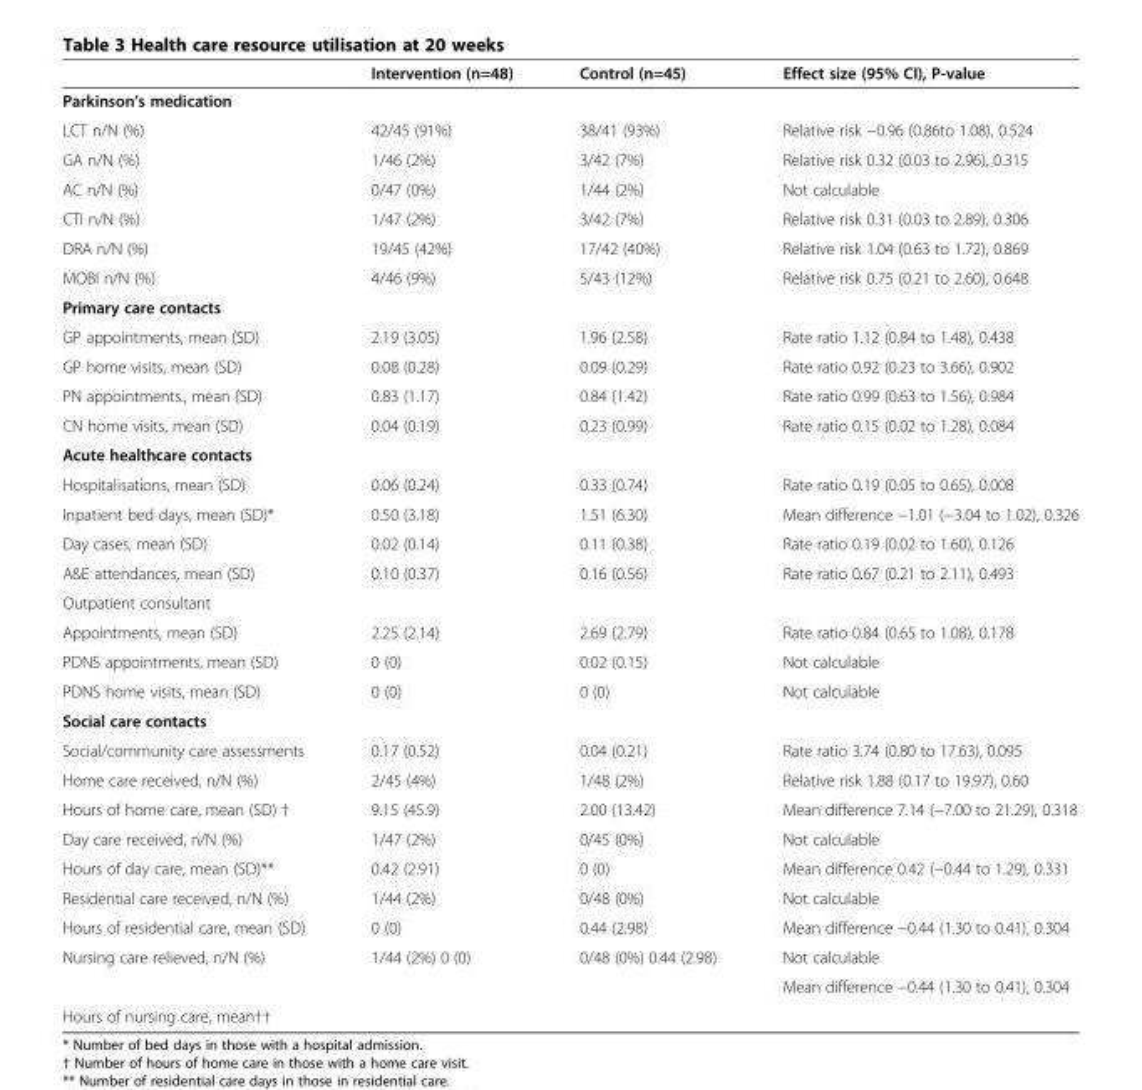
<table><thead><tr><td></td><td>Intervention (n=48)</td><td>Control (n=45)</td><td>Effect size (95% CI), P-value</td></tr></thead><tbody><tr><td colspan="4">Parkinson’s medication</td></tr><tr><td>LCT n/N (%)</td><td>42/45 (91%)</td><td>38/41 (93%)</td><td>Relative risk −0.96 (0.86to 1.08), 0.524</td></tr><tr><td>GA n/N (%)</td><td>1/46 (2%)</td><td>3/42 (7%)</td><td>Relative risk 0.32 (0.03 to 2.96), 0.315</td></tr><tr><td>AC n/N (%)</td><td>0/47 (0%)</td><td>1/44 (2%)</td><td>Not calculable</td></tr><tr><td>CTI n/N (%)</td><td>1/47 (2%)</td><td>3/42 (7%)</td><td>Relative risk 0.31 (0.03 to 2.89), 0.306</td></tr><tr><td>DRA n/N (%)</td><td>19/45 (42%)</td><td>17/42 (40%)</td><td>Relative risk 1.04 (0.63 to 1.72), 0.869</td></tr><tr><td>MOBI n/N (%)</td><td>4/46 (9%)</td><td>5/43 (12%)</td><td>Relative risk 0.75 (0.21 to 2.60), 0.648</td></tr><tr><td colspan="4">Primary care contacts</td></tr><tr><td>GP appointments, mean (SD)</td><td>2.19 (3.05)</td><td>1.96 (2.58)</td><td>Rate ratio 1.12 (0.84 to 1.48), 0.438</td></tr><tr><td>GP home visits, mean (SD)</td><td>0.08 (0.28)</td><td>0.09 (0.29)</td><td>Rate ratio 0.92 (0.23 to 3.66), 0.902</td></tr><tr><td>PN appointments., mean (SD)</td><td>0.83 (1.17)</td><td>0.84 (1.42)</td><td>Rate ratio 0.99 (0.63 to 1.56), 0.984</td></tr><tr><td>CN home visits, mean (SD)</td><td>0.04 (0.19)</td><td>0.23 (0.99)</td><td>Rate ratio 0.15 (0.02 to 1.28), 0.084</td></tr><tr><td colspan="4">Acute healthcare contacts</td></tr><tr><td>Hospitalisations, mean (SD)</td><td>0.06 (0.24)</td><td>0.33 (0.74)</td><td>Rate ratio 0.19 (0.05 to 0.65), 0.008</td></tr><tr><td>Inpatient bed days, mean (SD)*</td><td>0.50 (3.18)</td><td>1.51 (6.30)</td><td>Mean difference −1.01 (−3.04 to 1.02), 0.326</td></tr><tr><td>Day cases, mean (SD)</td><td>0.02 (0.14)</td><td>0.11 (0.38)</td><td>Rate ratio 0.19 (0.02 to 1.60), 0.126</td></tr><tr><td>A&amp;E attendances, mean (SD)</td><td>0.10 (0.37)</td><td>0.16 (0.56)</td><td>Rate ratio 0.67 (0.21 to 2.11), 0.493</td></tr><tr><td colspan="4">Outpatient consultant</td></tr><tr><td>Appointments, mean (SD)</td><td>2.25 (2.14)</td><td>2.69 (2.79)</td><td>Rate ratio 0.84 (0.65 to 1.08), 0.178</td></tr><tr><td>PDNS appointments, mean (SD)</td><td>0 (0)</td><td>0.02 (0.15)</td><td>Not calculable</td></tr><tr><td>PDNS home visits, mean (SD)</td><td>0 (0)</td><td>0 (0)</td><td>Not calculable</td></tr><tr><td colspan="4">Social care contacts</td></tr><tr><td>Social/community care assessments</td><td>0.17 (0.52)</td><td>0.04 (0.21)</td><td>Rate ratio 3.74 (0.80 to 17.63), 0.095</td></tr><tr><td>Home care received, n/N (%)</td><td>2/45 (4%)</td><td>1/48 (2%)</td><td>Relative risk 1.88 (0.17 to 19.97), 0.60</td></tr><tr><td>Hours of home care, mean (SD) †</td><td>9.15 (45.9)</td><td>2.00 (13.42)</td><td>Mean difference 7.14 (−7.00 to 21.29), 0.318</td></tr><tr><td>Day care received, n/N (%)</td><td>1/47 (2%)</td><td>0/45 (0%)</td><td>Not calculable</td></tr><tr><td>Hours of day care, mean (SD)**</td><td>0.42 (2.91)</td><td>0 (0)</td><td>Mean difference 0.42 (−0.44 to 1.29), 0.331</td></tr><tr><td>Residential care received, n/N (%)</td><td>1/44 (2%)</td><td>0/48 (0%)</td><td>Not calculable</td></tr><tr><td>Hours of residential care, mean (SD)</td><td>0 (0)</td><td>0.44 (2.98)</td><td>Mean difference −0.44 (1.30 to 0.41), 0.304</td></tr><tr><td rowspan="2">Nursing care relieved, n/N (%)</td><td rowspan="2">1/44 (2%) 0 (0)</td><td rowspan="2">0/48 (0%) 0.44 (2.98)</td><td>Not calculable</td></tr><tr><td>Mean difference −0.44 (1.30 to 0.41), 0.304</td></tr><tr><td>Hours of nursing care, mean††</td><td></td><td></td><td></td></tr></tbody></table>